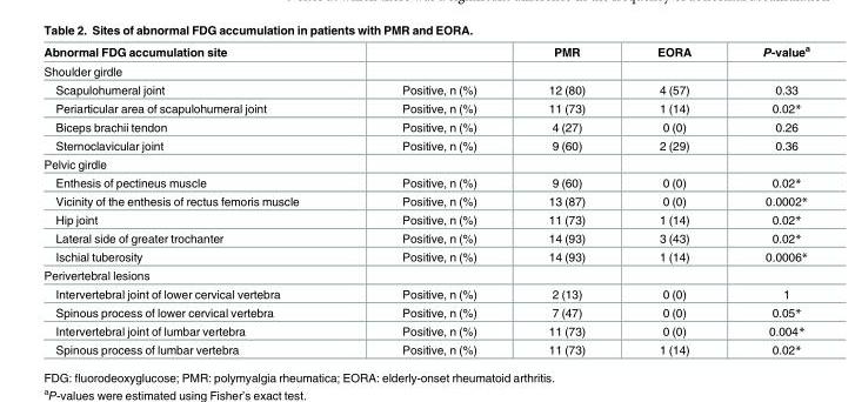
<table><thead><tr><td>Abnormal FDG accumulation site</td><td></td><td>PMR</td><td>EORA</td><td>P-value<sup>a</sup></td></tr></thead><tbody><tr><td colspan="5">Shoulder girdle</td></tr><tr><td>Scapulohumeral joint</td><td>Positive, n (%)</td><td>12 (80)</td><td>4 (57)</td><td>0.33</td></tr><tr><td>Periarticular area of scapulohumeral joint</td><td>Positive, n (%)</td><td>11 (73)</td><td>1 (14)</td><td>0.02*</td></tr><tr><td>Biceps brachii tendon</td><td>Positive, n (%)</td><td>4 (27)</td><td>0 (0)</td><td>0.26</td></tr><tr><td>Sternoclavicular joint</td><td>Positive, n (%)</td><td>9 (60)</td><td>2 (29)</td><td>0.36</td></tr><tr><td colspan="5">Pelvic girdle</td></tr><tr><td>Enthesis of pectineus muscle</td><td>Positive, n (%)</td><td>9 (60)</td><td>0 (0)</td><td>0.02*</td></tr><tr><td>Vicinity of the enthesis of rectus femoris muscle</td><td>Positive, n (%)</td><td>13 (87)</td><td>0 (0)</td><td>0.0002*</td></tr><tr><td>Hip joint</td><td>Positive, n (%)</td><td>11 (73)</td><td>1 (14)</td><td>0.02*</td></tr><tr><td>Lateral side of greater trochanter</td><td>Positive, n (%)</td><td>14 (93)</td><td>3 (43)</td><td>0.02*</td></tr><tr><td>Ischial tuberosity</td><td>Positive, n (%)</td><td>14 (93)</td><td>1 (14)</td><td>0.0006*</td></tr><tr><td colspan="5">Perivertebral lesions</td></tr><tr><td>Intervertebral joint of lower cervical vertebra</td><td>Positive, n (%)</td><td>2 (13)</td><td>0 (0)</td><td>1</td></tr><tr><td>Spinous process of lower cervical vertebra</td><td>Positive, n (%)</td><td>7 (47)</td><td>0 (0)</td><td>0.05*</td></tr><tr><td>Intervertebral joint of lumbar vertebra</td><td>Positive, n (%)</td><td>11 (73)</td><td>0 (0)</td><td>0.004*</td></tr><tr><td>Spinous process of lumbar vertebra</td><td>Positive, n (%)</td><td>11 (73)</td><td>1 (14)</td><td>0.02*</td></tr></tbody></table>